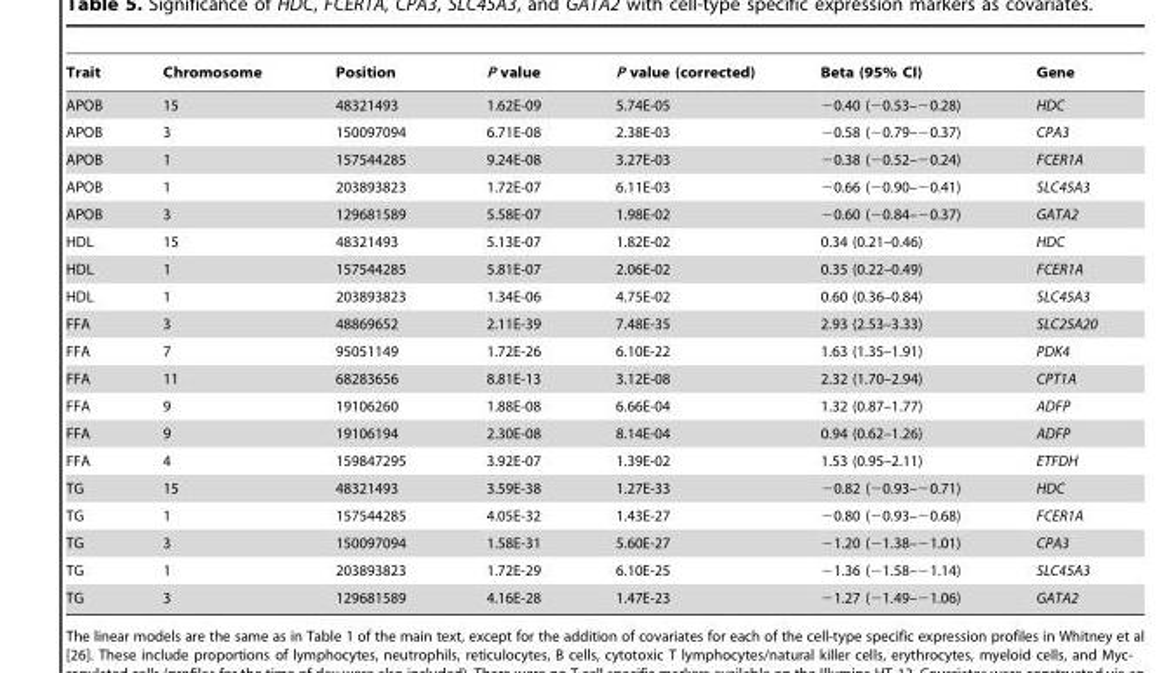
<table><thead><tr><td>Trait</td><td>Chromosome</td><td>Position</td><td>P value</td><td>P value (corrected)</td><td>Beta (95% CI)</td><td>Gene</td></tr></thead><tbody><tr><td>APOB</td><td>15</td><td>48321493</td><td>1.62E-09</td><td>5.74E-05</td><td>−0.40 (−0.53–−0.28)</td><td>HDC</td></tr><tr><td>APOB</td><td>3</td><td>150097094</td><td>6.71E-08</td><td>2.38E-03</td><td>−0.58 (−0.79–−0.37)</td><td>CPA3</td></tr><tr><td>APOB</td><td>1</td><td>157544285</td><td>9.24E-08</td><td>3.27E-03</td><td>−0.38 (−0.52–−0.24)</td><td>FCER1A</td></tr><tr><td>APOB</td><td>1</td><td>203893823</td><td>1.72E-07</td><td>6.11E-03</td><td>−0.66 (−0.90–−0.41)</td><td>SLC45A3</td></tr><tr><td>APOB</td><td>3</td><td>129681589</td><td>5.58E-07</td><td>1.98E-02</td><td>−0.60 (−0.84–−0.37)</td><td>GATA2</td></tr><tr><td>HDL</td><td>15</td><td>48321493</td><td>5.13E-07</td><td>1.82E-02</td><td>0.34 (0.21–0.46)</td><td>HDC</td></tr><tr><td>HDL</td><td>1</td><td>157544285</td><td>5.81E-07</td><td>2.06E-02</td><td>0.35 (0.22–0.49)</td><td>FCER1A</td></tr><tr><td>HDL</td><td>1</td><td>203893823</td><td>1.34E-06</td><td>4.75E-02</td><td>0.60 (0.36–0.84)</td><td>SLC45A3</td></tr><tr><td>FFA</td><td>3</td><td>48869652</td><td>2.11E-39</td><td>7.48E-35</td><td>2.93 (2.53–3.33)</td><td>SLC25A20</td></tr><tr><td>FFA</td><td>7</td><td>95051149</td><td>1.72E-26</td><td>6.10E-22</td><td>1.63 (1.35–1.91)</td><td>PDK4</td></tr><tr><td>FFA</td><td>11</td><td>68283656</td><td>8.81E-13</td><td>3.12E-08</td><td>2.32 (1.70–2.94)</td><td>CPT1A</td></tr><tr><td>FFA</td><td>9</td><td>19106260</td><td>1.88E-08</td><td>6.66E-04</td><td>1.32 (0.87–1.77)</td><td>ADFP</td></tr><tr><td>FFA</td><td>9</td><td>19106194</td><td>2.30E-08</td><td>8.14E-04</td><td>0.94 (0.62–1.26)</td><td>ADFP</td></tr><tr><td>FFA</td><td>4</td><td>159847295</td><td>3.92E-07</td><td>1.39E-02</td><td>1.53 (0.95–2.11)</td><td>ETFDH</td></tr><tr><td>TG</td><td>15</td><td>48321493</td><td>3.59E-38</td><td>1.27E-33</td><td>−0.82 (−0.93–−0.71)</td><td>HDC</td></tr><tr><td>TG</td><td>1</td><td>157544285</td><td>4.05E-32</td><td>1.43E-27</td><td>−0.80 (−0.93–−0.68)</td><td>FCER1A</td></tr><tr><td>TG</td><td>3</td><td>150097094</td><td>1.58E-31</td><td>5.60E-27</td><td>−1.20 (−1.38–−1.01)</td><td>CPA3</td></tr><tr><td>TG</td><td>1</td><td>203893823</td><td>1.72E-29</td><td>6.10E-25</td><td>−1.36 (−1.58–−1.14)</td><td>SLC45A3</td></tr><tr><td>TG</td><td>3</td><td>129681589</td><td>4.16E-28</td><td>1.47E-23</td><td>−1.27 (−1.49–−1.06)</td><td>GATA2</td></tr></tbody></table>